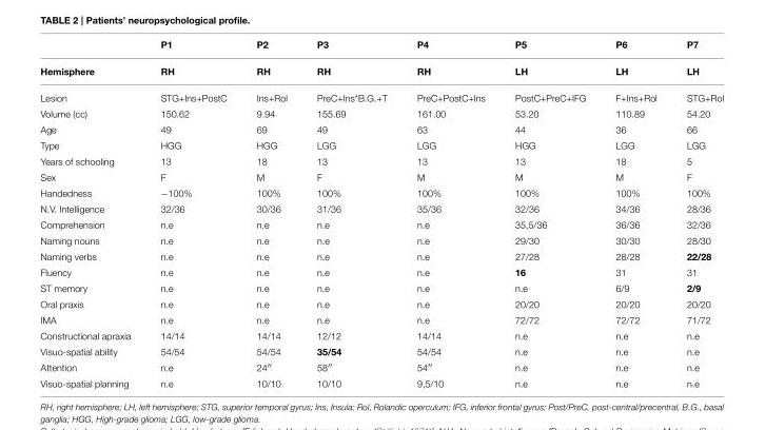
<table><thead><tr><td rowspan="2">Hemisphere</td><td rowspan="2">P1 RH</td><td rowspan="2">P2 RH</td><td rowspan="2">P3 RH</td><td rowspan="2">P4 RH</td><td rowspan="2">P5 LH</td><td rowspan="2">P6 LH</td><td rowspan="2">P7 LH</td></tr><tr></tr></thead><tbody><tr><td>Lesion</td><td>STG+Ins+PostC</td><td>Ins+Rol</td><td>PreC+Ins*B.G.+T</td><td>PreC+PostC+Ins</td><td>PostC+PreC+IFG</td><td>F+Ins+Rol</td><td>STG+Rol</td></tr><tr><td>Volume (cc)</td><td>150.62</td><td>9.94</td><td>155.69</td><td>161.00</td><td>53.20</td><td>110.89</td><td>54.20</td></tr><tr><td>Age</td><td>49</td><td>69</td><td>49</td><td>63</td><td>44</td><td>36</td><td>66</td></tr><tr><td>Type</td><td>HGG</td><td>HGG</td><td>LGG</td><td>LGG</td><td>HGG</td><td>LGG</td><td>LGG</td></tr><tr><td>Years of schooling</td><td>13</td><td>18</td><td>13</td><td>13</td><td>13</td><td>18</td><td>5</td></tr><tr><td>Sex</td><td>F</td><td>M</td><td>F</td><td>M</td><td>M</td><td>M</td><td>F</td></tr><tr><td>Handedness</td><td>−100%</td><td>100%</td><td>100%</td><td>100%</td><td>100%</td><td>100%</td><td>100%</td></tr><tr><td>N.V. Intelligence</td><td>32/36</td><td>30/36</td><td>31/36</td><td>35/36</td><td>32/36</td><td>34/36</td><td>28/36</td></tr><tr><td>Comprehension</td><td>n.e</td><td>n.e</td><td>n.e</td><td>n.e</td><td>35,5/36</td><td>36/36</td><td>32/36</td></tr><tr><td>Naming nouns</td><td>n.e</td><td>n.e</td><td>n.e</td><td>n.e</td><td>29/30</td><td>30/30</td><td>28/30</td></tr><tr><td>Naming verbs</td><td>n.e</td><td>n.e</td><td>n.e</td><td>n.e</td><td>27/28</td><td>28/28</td><td>22/28</td></tr><tr><td>Fluency</td><td>n.e</td><td>n.e</td><td>n.e</td><td>n.e</td><td>16</td><td>31</td><td>31</td></tr><tr><td>ST memory</td><td>n.e</td><td>n.e</td><td>n.e</td><td>n.e</td><td>n.e</td><td>6/9</td><td>2/9</td></tr><tr><td>Oral praxis</td><td>n.e</td><td>n.e</td><td>n.e</td><td>n.e</td><td>20/20</td><td>20/20</td><td>20/20</td></tr><tr><td>IMA</td><td>n.e</td><td>n.e</td><td>n.e</td><td>n.e</td><td>72/72</td><td>72/72</td><td>71/72</td></tr><tr><td>Constructional apraxia</td><td>14/14</td><td>14/14</td><td>12/12</td><td>14/14</td><td>n.e</td><td>n.e</td><td>n.e</td></tr><tr><td>Visuo-spatial ability</td><td>54/54</td><td>54/54</td><td>35/54</td><td>54/54</td><td>n.e</td><td>n.e</td><td>n.e</td></tr><tr><td>Attention</td><td>n.e</td><td>24′′</td><td>58′′</td><td>54′′</td><td>n.e</td><td>n.e</td><td>n.e</td></tr><tr><td>Visuo-spatial planning</td><td>n.e</td><td>10/10</td><td>10/10</td><td>9,5/10</td><td>n.e</td><td>n.e</td><td>n.e</td></tr></tbody></table>